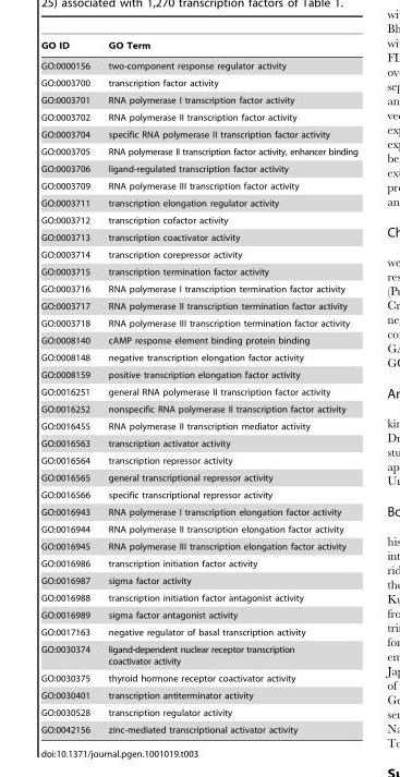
<table><thead><tr><td>GO ID</td><td>GO Term</td></tr></thead><tbody><tr><td>GO:0000156</td><td>two-component response regulator activity</td></tr><tr><td>GO:0003700</td><td>transcription factor activity</td></tr><tr><td>GO:0003701</td><td>RNA polymerase I transcription factor activity</td></tr><tr><td>GO:0003702</td><td>RNA polymerase II transcription factor activity</td></tr><tr><td>GO:0003704</td><td>specific RNA polymerase II transcription factor activity</td></tr><tr><td>GO:0003705</td><td>RNA polymerase II transcription factor activity, enhancer binding</td></tr><tr><td>GO:0003706</td><td>ligand-regulated transcription factor activity</td></tr><tr><td>GO:0003709</td><td>RNA polymerase III transcription factor activity</td></tr><tr><td>GO:0003711</td><td>transcription elongation regulator activity</td></tr><tr><td>GO:0003712</td><td>transcription cofactor activity</td></tr><tr><td>GO:0003713</td><td>transcription coactivator activity</td></tr><tr><td>GO:0003714</td><td>transcription corepressor activity</td></tr><tr><td>GO:0003715</td><td>transcription termination factor activity</td></tr><tr><td>GO:0003716</td><td>RNA polymerase I transcription termination factor activity</td></tr><tr><td>GO:0003717</td><td>RNA polymerase II transcription termination factor activity</td></tr><tr><td>GO:0003718</td><td>RNA polymerase III transcription termination factor activity</td></tr><tr><td>GO:0008140</td><td>cAMP response element binding protein binding</td></tr><tr><td>GO:0008148</td><td>negative transcription elongation factor activity</td></tr><tr><td>GO:0008159</td><td>positive transcription elongation factor activity</td></tr><tr><td>GO:0016251</td><td>general RNA polymerase II transcription factor activity</td></tr><tr><td>GO:0016252</td><td>nonspecific RNA polymerase II transcription factor activity</td></tr><tr><td>GO:0016455</td><td>RNA polymerase II transcription mediator activity</td></tr><tr><td>GO:0016563</td><td>transcription activator activity</td></tr><tr><td>GO:0016564</td><td>transcription repressor activity</td></tr><tr><td>GO:0016565</td><td>general transcriptional repressor activity</td></tr><tr><td>GO:0016566</td><td>specific transcriptional repressor activity</td></tr><tr><td>GO:0016943</td><td>RNA polymerase I transcription elongation factor activity</td></tr><tr><td>GO:0016944</td><td>RNA polymerase II transcription elongation factor activity</td></tr><tr><td>GO:0016945</td><td>RNA polymerase III transcription elongation factor activity</td></tr><tr><td>GO:0016986</td><td>transcription initiation factor activity</td></tr><tr><td>GO:0016987</td><td>sigma factor activity</td></tr><tr><td>GO:0016988</td><td>transcription initiation factor antagonist activity</td></tr><tr><td>GO:0016989</td><td>sigma factor antagonist activity</td></tr><tr><td>GO:0017163</td><td>negative regulator of basal transcription activity</td></tr><tr><td>GO:0030374</td><td>ligand-dependent nuclear receptor transcription coactivator activity</td></tr><tr><td>GO:0030375</td><td>thyroid hormone receptor coactivator activity</td></tr><tr><td>GO:0030401</td><td>transcription antiterminator activity</td></tr><tr><td>GO:0030528</td><td>transcription regulator activity</td></tr><tr><td>GO:0042156</td><td>zinc-mediated transcriptional activator activity</td></tr></tbody></table>